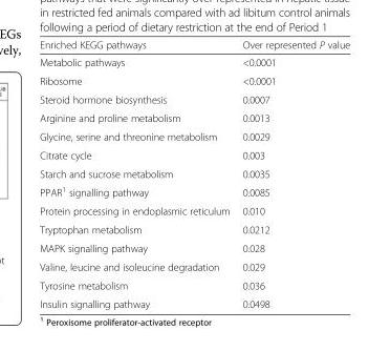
<table><thead><tr><td>Enriched KEGG pathways</td><td>Over represented P value</td></tr></thead><tbody><tr><td>Metabolic pathways</td><td>&lt;0.0001</td></tr><tr><td>Ribosome</td><td>&lt;0.0001</td></tr><tr><td>Steroid hormone biosynthesis</td><td>0.0007</td></tr><tr><td>Arginine and proline metabolism</td><td>0.0013</td></tr><tr><td>Glycine, serine and threonine metabolism</td><td>0.0029</td></tr><tr><td>Citrate cycle</td><td>0.003</td></tr><tr><td>Starch and sucrose metabolism</td><td>0.0035</td></tr><tr><td>PPAR<sup>1</sup> signalling pathway</td><td>0.0085</td></tr><tr><td>Protein processing in endoplasmic reticulum</td><td>0.010</td></tr><tr><td>Tryptophan metabolism</td><td>0.0212</td></tr><tr><td>MAPK signalling pathway</td><td>0.028</td></tr><tr><td>Valine, leucine and isoleucine degradation</td><td>0.029</td></tr><tr><td>Tyrosine metabolism</td><td>0.036</td></tr><tr><td>Insulin signalling pathway</td><td>0.0498</td></tr></tbody></table>